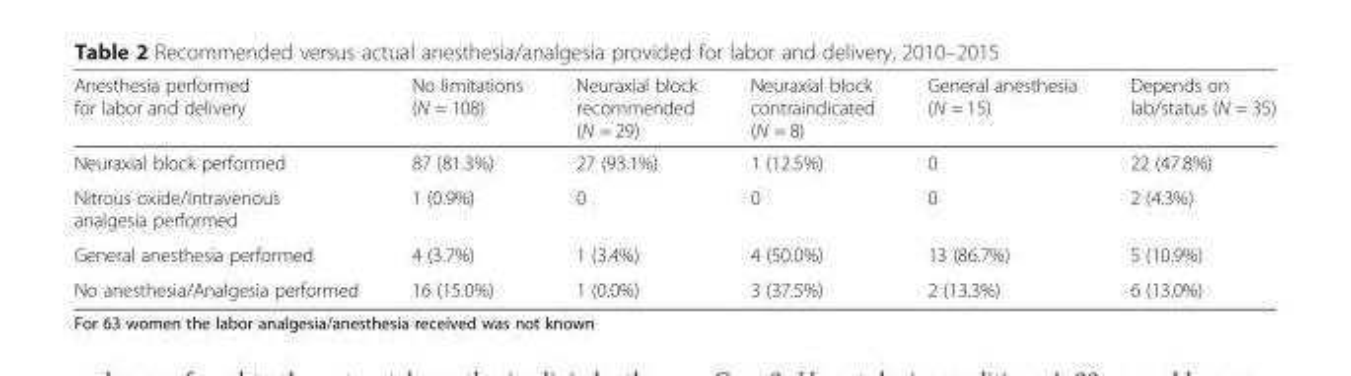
<table><thead><tr><td>Anesthesia performed for labor and delivery</td><td>No limitations (N = 108)</td><td>Neuraxial block recommended (N = 29)</td><td>Neuraxial block contraindicated (N = 8)</td><td>General anesthesia (N = 15)</td><td>Depends on lab/status (N = 35)</td></tr></thead><tbody><tr><td>Neuraxial block performed</td><td>87 (81.3%)</td><td>27 (93.1%)</td><td>1 (12.5%)</td><td>0</td><td>22 (47.8%)</td></tr><tr><td>Nitrous oxide/Intravenous analgesia performed</td><td>1 (0.9%)</td><td>0</td><td>0</td><td>0</td><td>2 (4.3%)</td></tr><tr><td>General anesthesia performed</td><td>4 (3.7%)</td><td>1 (3.4%)</td><td>4 (50.0%)</td><td>13 (86.7%)</td><td>5 (10.9%)</td></tr><tr><td>No anesthesia/Analgesia performed</td><td>16 (15.0%)</td><td>1 (0.0%)</td><td>3 (37.5%)</td><td>2 (13.3%)</td><td>6 (13.0%)</td></tr></tbody></table>